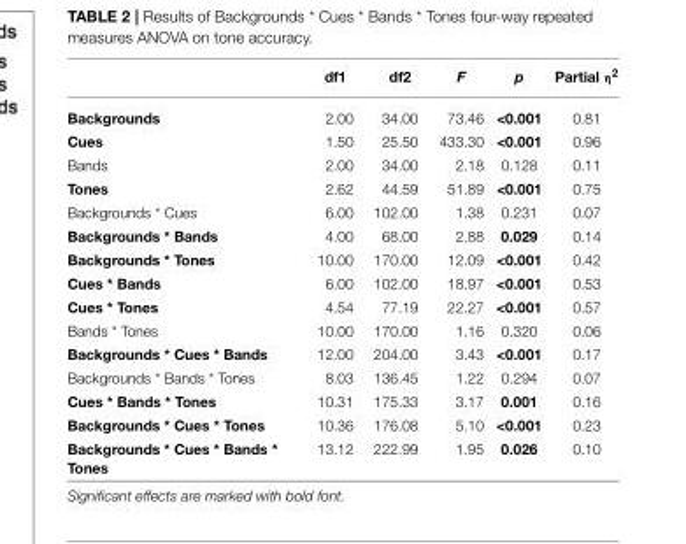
<table><thead><tr><td></td><td>df1</td><td>df2</td><td>F</td><td>p</td><td>Partial η<sup>2</sup></td></tr></thead><tbody><tr><td>Backgrounds</td><td>2.00</td><td>34.00</td><td>73.46</td><td>&lt;0.001</td><td>0.81</td></tr><tr><td>Cues</td><td>1.50</td><td>25.50</td><td>433.30</td><td>&lt;0.001</td><td>0.96</td></tr><tr><td>Bands</td><td>2.00</td><td>34.00</td><td>2.18</td><td>0.128</td><td>0.11</td></tr><tr><td>Tones</td><td>2.62</td><td>44.59</td><td>51.89</td><td>&lt;0.001</td><td>0.75</td></tr><tr><td>Backgrounds * Cues</td><td>6.00</td><td>102.00</td><td>1.38</td><td>0.231</td><td>0.07</td></tr><tr><td>Backgrounds * Bands</td><td>4.00</td><td>68.00</td><td>2.88</td><td>0.029</td><td>0.14</td></tr><tr><td>Backgrounds * Tones</td><td>10.00</td><td>170.00</td><td>12.09</td><td>&lt;0.001</td><td>0.42</td></tr><tr><td>Cues * Bands</td><td>6.00</td><td>102.00</td><td>18.97</td><td>&lt;0.001</td><td>0.53</td></tr><tr><td>Cues * Tones</td><td>4.54</td><td>77.19</td><td>22.27</td><td>&lt;0.001</td><td>0.57</td></tr><tr><td>Bands * Tones</td><td>10.00</td><td>170.00</td><td>1.16</td><td>0.320</td><td>0.06</td></tr><tr><td>Backgrounds * Cues * Bands</td><td>12.00</td><td>204.00</td><td>3.43</td><td>&lt;0.001</td><td>0.17</td></tr><tr><td>Backgrounds * Bands * Tones</td><td>8.03</td><td>136.45</td><td>1.22</td><td>0.294</td><td>0.07</td></tr><tr><td>Cues * Bands * Tones</td><td>10.31</td><td>175.33</td><td>3.17</td><td>0.001</td><td>0.16</td></tr><tr><td>Backgrounds * Cues * Tones</td><td>10.36</td><td>176.08</td><td>5.10</td><td>&lt;0.001</td><td>0.23</td></tr><tr><td>Backgrounds * Cues * Bands * Tones</td><td>13.12</td><td>222.99</td><td>1.95</td><td>0.026</td><td>0.10</td></tr></tbody></table>